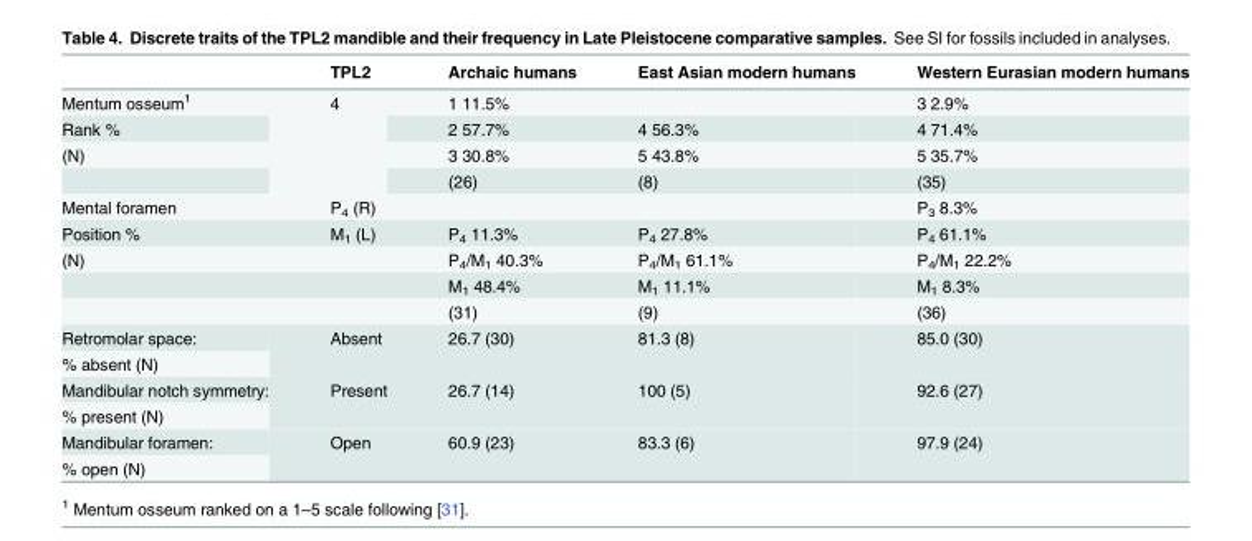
<table><thead><tr><td></td><td>TPL2</td><td>Archaic humans</td><td>East Asian modern humans</td><td>Western Eurasian modern humans</td></tr></thead><tbody><tr><td>Mentum osseum<sup>1</sup></td><td rowspan="4">4</td><td>1 11.5%</td><td></td><td>3 2.9%</td></tr><tr><td>Rank %</td><td>2 57.7%</td><td>4 56.3%</td><td>4 71.4%</td></tr><tr><td rowspan="2">(N)</td><td>3 30.8%</td><td>5 43.8%</td><td>5 35.7%</td></tr><tr><td>(26)</td><td>(8)</td><td>(35)</td></tr><tr><td>Mental foramen</td><td>P<sub>4</sub> (R)</td><td></td><td></td><td>P<sub>3</sub> 8.3%</td></tr><tr><td>Position %</td><td>M<sub>1</sub> (L)</td><td>P<sub>4</sub> 11.3%</td><td>P<sub>4</sub> 27.8%</td><td>P<sub>4</sub> 61.1%</td></tr><tr><td rowspan="3">(N)</td><td></td><td>P<sub>4</sub>/M<sub>1</sub> 40.3%</td><td>P<sub>4</sub>/M<sub>1</sub> 61.1%</td><td>P<sub>4</sub>/M<sub>1</sub> 22.2%</td></tr><tr><td></td><td>M<sub>1</sub> 48.4%</td><td>M<sub>1</sub> 11.1%</td><td>M<sub>1</sub> 8.3%</td></tr><tr><td></td><td>(31)</td><td>(9)</td><td>(36)</td></tr><tr><td>Retromolar space:</td><td rowspan="2">Absent</td><td rowspan="2">26.7 (30)</td><td rowspan="2">81.3 (8)</td><td rowspan="2">85.0 (30)</td></tr><tr><td>% absent (N)</td></tr><tr><td>Mandibular notch symmetry:</td><td rowspan="2">Present</td><td rowspan="2">26.7 (14)</td><td rowspan="2">100 (5)</td><td rowspan="2">92.6 (27)</td></tr><tr><td>% present (N)</td></tr><tr><td>Mandibular foramen:</td><td rowspan="2">Open</td><td rowspan="2">60.9 (23)</td><td rowspan="2">83.3 (6)</td><td rowspan="2">97.9 (24)</td></tr><tr><td>% open (N)</td></tr></tbody></table>